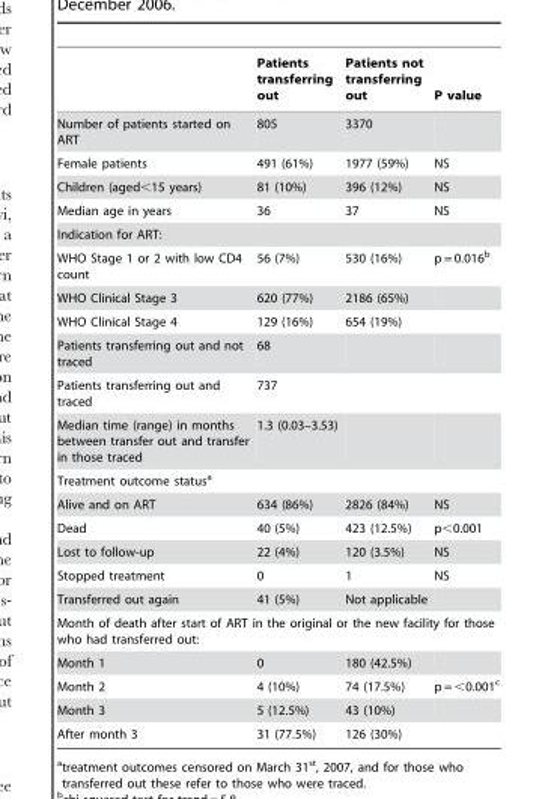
<table><thead><tr><td></td><td>Patients transferring out</td><td>Patients not transferring out</td><td>P value</td></tr></thead><tbody><tr><td>Number of patients started on ART</td><td>805</td><td>3370</td><td></td></tr><tr><td>Female patients</td><td>491 (61%)</td><td>1977 (59%)</td><td>NS</td></tr><tr><td>Children (aged&lt;15 years)</td><td>81 (10%)</td><td>396 (12%)</td><td>NS</td></tr><tr><td>Median age in years</td><td>36</td><td>37</td><td>NS</td></tr><tr><td colspan="4">Indication for ART:</td></tr><tr><td>WHO Stage 1 or 2 with low CD4 count</td><td>56 (7%)</td><td>530 (16%)</td><td>p = 0.016<sup>b</sup></td></tr><tr><td>WHO Clinical Stage 3</td><td>620 (77%)</td><td>2186 (65%)</td><td></td></tr><tr><td>WHO Clinical Stage 4</td><td>129 (16%)</td><td>654 (19%)</td><td></td></tr><tr><td>Patients transferring out and not traced</td><td>68</td><td></td><td></td></tr><tr><td>Patients transferring out and traced</td><td>737</td><td></td><td></td></tr><tr><td>Median time (range) in months between transfer out and transfer in those traced</td><td>1.3 (0.03–3.53)</td><td></td><td></td></tr><tr><td colspan="4">Treatment outcome status<sup>a</sup></td></tr><tr><td>Alive and on ART</td><td>634 (86%)</td><td>2826 (84%)</td><td>NS</td></tr><tr><td>Dead</td><td>40 (5%)</td><td>423 (12.5%)</td><td>p&lt;0.001</td></tr><tr><td>Lost to follow-up</td><td>22 (4%)</td><td>120 (3.5%)</td><td>NS</td></tr><tr><td>Stopped treatment</td><td>0</td><td>1</td><td>NS</td></tr><tr><td>Transferred out again</td><td>41 (5%)</td><td>Not applicable</td><td></td></tr><tr><td colspan="4">Month of death after start of ART in the original or the new facility for those who had transferred out:</td></tr><tr><td>Month 1</td><td>0</td><td>180 (42.5%)</td><td></td></tr><tr><td>Month 2</td><td>4 (10%)</td><td>74 (17.5%)</td><td>p = &lt;0.001<sup>c</sup></td></tr><tr><td>Month 3</td><td>5 (12.5%)</td><td>43 (10%)</td><td></td></tr><tr><td>After month 3</td><td>31 (77.5%)</td><td>126 (30%)</td><td></td></tr></tbody></table>